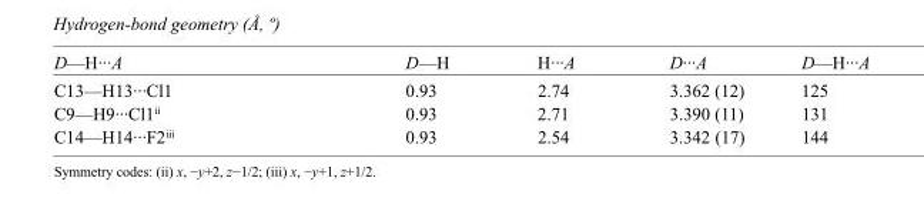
<table><tbody><tr><td>D—H···A</td><td>D—H</td><td>H···A</td><td>D···A</td><td>D—H···A</td></tr><tr><td>C13—H13···Cl1</td><td>0.93</td><td>2.74</td><td>3.362 (12)</td><td>125</td></tr><tr><td>C9—H9···Cl1<sup>ii</sup></td><td>0.93</td><td>2.71</td><td>3.390 (11)</td><td>131</td></tr><tr><td>C14—H14···F2<sup>iii</sup></td><td>0.93</td><td>2.54</td><td>3.342 (17)</td><td>144</td></tr></tbody></table>